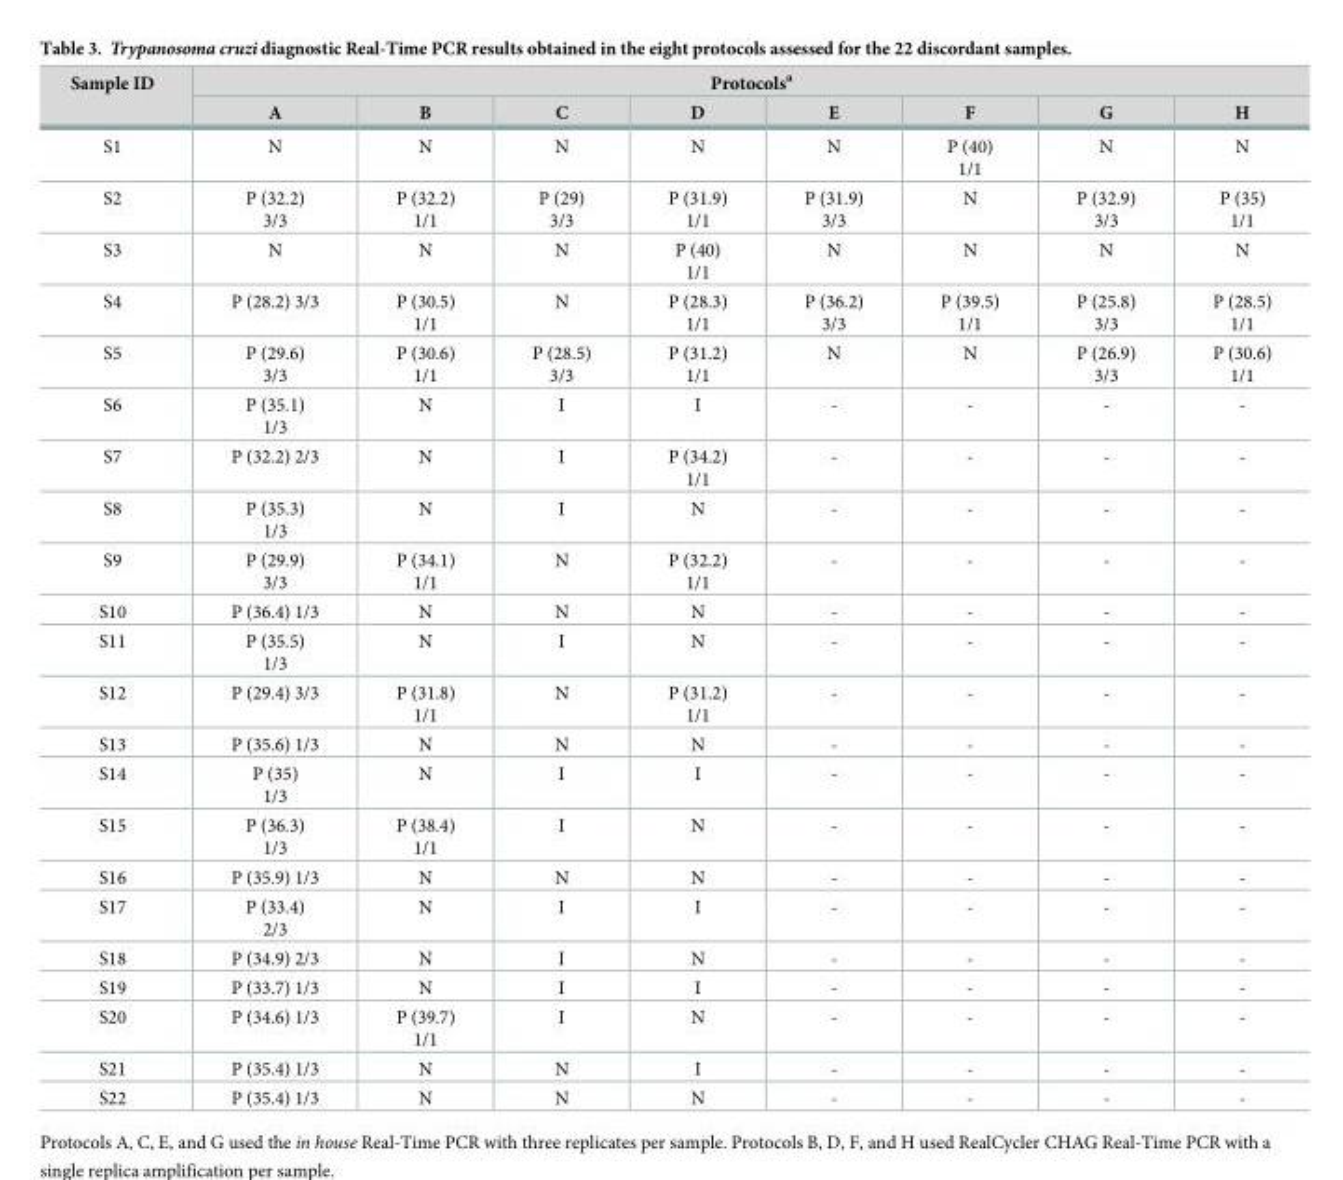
<table><thead><tr><td rowspan="2">Sample ID</td><td colspan="8">Protocols<sup>a</sup></td></tr><tr><td>A</td><td>B</td><td>C</td><td>D</td><td>E</td><td>F</td><td>G</td><td>H</td></tr></thead><tbody><tr><td>S1</td><td>N</td><td>N</td><td>N</td><td>N</td><td>N</td><td>P (40) 1/1</td><td>N</td><td>N</td></tr><tr><td>S2</td><td>P (32.2) 3/3</td><td>P (32.2) 1/1</td><td>P (29) 3/3</td><td>P (31.9) 1/1</td><td>P (31.9) 3/3</td><td>N</td><td>P (32.9) 3/3</td><td>P (35) 1/1</td></tr><tr><td>S3</td><td>N</td><td>N</td><td>N</td><td>P (40) 1/1</td><td>N</td><td>N</td><td>N</td><td>N</td></tr><tr><td>S4</td><td>P (28.2) 3/3</td><td>P (30.5) 1/1</td><td>N</td><td>P (28.3) 1/1</td><td>P (36.2) 3/3</td><td>P (39.5) 1/1</td><td>P (25.8) 3/3</td><td>P (28.5) 1/1</td></tr><tr><td>S5</td><td>P (29.6) 3/3</td><td>P (30.6) 1/1</td><td>P (28.5) 3/3</td><td>P (31.2) 1/1</td><td>N</td><td>N</td><td>P (26.9) 3/3</td><td>P (30.6) 1/1</td></tr><tr><td>S6</td><td>P (35.1) 1/3</td><td>N</td><td>I</td><td>I</td><td>-</td><td>-</td><td>-</td><td>-</td></tr><tr><td>S7</td><td>P (32.2) 2/3</td><td>N</td><td>I</td><td>P (34.2) 1/1</td><td>-</td><td>-</td><td>-</td><td>-</td></tr><tr><td>S8</td><td>P (35.3) 1/3</td><td>N</td><td>I</td><td>N</td><td>-</td><td>-</td><td>-</td><td>-</td></tr><tr><td>S9</td><td>P (29.9) 3/3</td><td>P (34.1) 1/1</td><td>N</td><td>P (32.2) 1/1</td><td>-</td><td>-</td><td>-</td><td>-</td></tr><tr><td>S10</td><td>P (36.4) 1/3</td><td>N</td><td>N</td><td>N</td><td>-</td><td>-</td><td>-</td><td>-</td></tr><tr><td>S11</td><td>P (35.5) 1/3</td><td>N</td><td>I</td><td>N</td><td>-</td><td>-</td><td>-</td><td>-</td></tr><tr><td>S12</td><td>P (29.4) 3/3</td><td>P (31.8) 1/1</td><td>N</td><td>P (31.2) 1/1</td><td>-</td><td>-</td><td>-</td><td>-</td></tr><tr><td>S13</td><td>P (35.6) 1/3</td><td>N</td><td>N</td><td>N</td><td>-</td><td>-</td><td>-</td><td>-</td></tr><tr><td>S14</td><td>P (35) 1/3</td><td>N</td><td>I</td><td>I</td><td>-</td><td>-</td><td>-</td><td>-</td></tr><tr><td>S15</td><td>P (36.3) 1/3</td><td>P (38.4) 1/1</td><td>I</td><td>N</td><td>-</td><td>-</td><td>-</td><td>-</td></tr><tr><td>S16</td><td>P (35.9) 1/3</td><td>N</td><td>N</td><td>N</td><td>-</td><td>-</td><td>-</td><td>-</td></tr><tr><td>S17</td><td>P (33.4) 2/3</td><td>N</td><td>I</td><td>I</td><td>-</td><td>-</td><td>-</td><td>-</td></tr><tr><td>S18</td><td>P (34.9) 2/3</td><td>N</td><td>I</td><td>N</td><td>-</td><td>-</td><td>-</td><td>-</td></tr><tr><td>S19</td><td>P (33.7) 1/3</td><td>N</td><td>I</td><td>I</td><td>-</td><td>-</td><td>-</td><td>-</td></tr><tr><td>S20</td><td>P (34.6) 1/3</td><td>P (39.7) 1/1</td><td>I</td><td>N</td><td>-</td><td>-</td><td>-</td><td>-</td></tr><tr><td>S21</td><td>P (35.4) 1/3</td><td>N</td><td>N</td><td>I</td><td>-</td><td>-</td><td>-</td><td>-</td></tr><tr><td>S22</td><td>P (35.4) 1/3</td><td>N</td><td>N</td><td>N</td><td>-</td><td>-</td><td>-</td><td>-</td></tr></tbody></table>